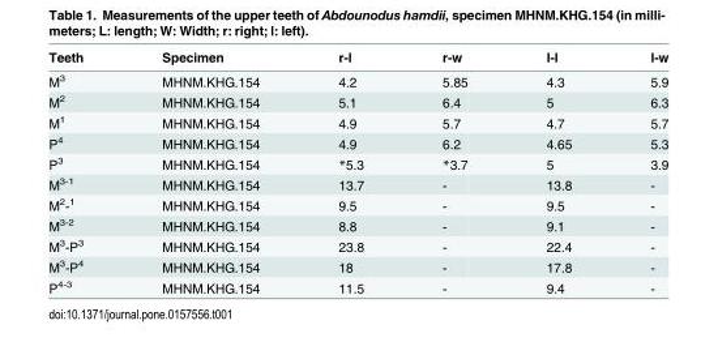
<table><thead><tr><td>Teeth</td><td>Specimen</td><td>r-l</td><td>r-w</td><td>l-l</td><td>l-w</td></tr></thead><tbody><tr><td>M<sup>3</sup></td><td>MHNM.KHG.154</td><td>4.2</td><td>5.85</td><td>4.3</td><td>5.9</td></tr><tr><td>M<sup>2</sup></td><td>MHNM.KHG.154</td><td>5.1</td><td>6.4</td><td>5</td><td>6.3</td></tr><tr><td>M<sup>1</sup></td><td>MHNM.KHG.154</td><td>4.9</td><td>5.7</td><td>4.7</td><td>5.7</td></tr><tr><td>P<sup>4</sup></td><td>MHNM.KHG.154</td><td>4.9</td><td>6.2</td><td>4.65</td><td>5.3</td></tr><tr><td>P<sup>3</sup></td><td>MHNM.KHG.154</td><td>*5.3</td><td>*3.7</td><td>5</td><td>3.9</td></tr><tr><td>M<sup>3-1</sup></td><td>MHNM.KHG.154</td><td>13.7</td><td>-</td><td>13.8</td><td>-</td></tr><tr><td>M<sup>2</sup>-<sup>1</sup></td><td>MHNM.KHG.154</td><td>9.5</td><td>-</td><td>9.5</td><td>-</td></tr><tr><td>M<sup>3-2</sup></td><td>MHNM.KHG.154</td><td>8.8</td><td>-</td><td>9.1</td><td>-</td></tr><tr><td>M<sup>3</sup>-P<sup>3</sup></td><td>MHNM.KHG.154</td><td>23.8</td><td>-</td><td>22.4</td><td>-</td></tr><tr><td>M<sup>3</sup>-P<sup>4</sup></td><td>MHNM.KHG.154</td><td>18</td><td>-</td><td>17.8</td><td>-</td></tr><tr><td>P<sup>4-3</sup></td><td>MHNM.KHG.154</td><td>11.5</td><td>-</td><td>9.4</td><td>-</td></tr></tbody></table>